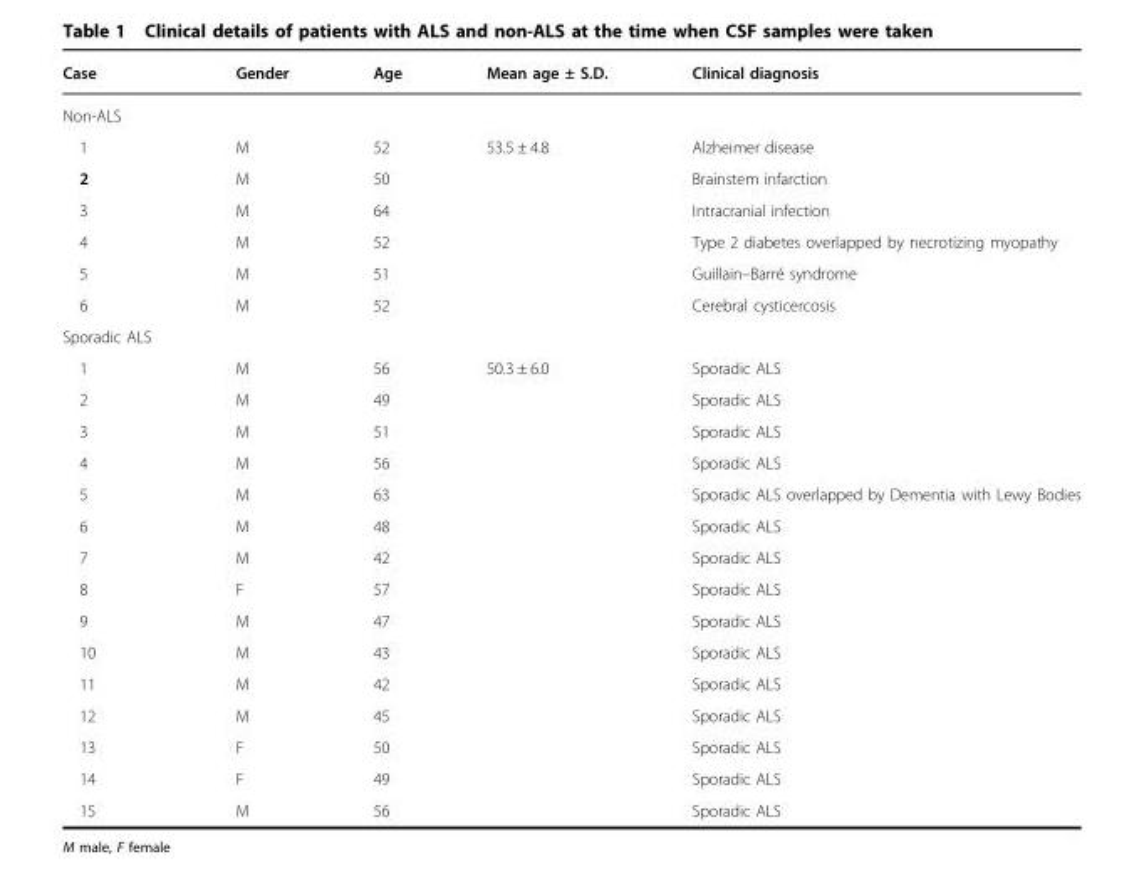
<table><thead><tr><td>Case</td><td>Gender</td><td>Age</td><td>Mean age ± S.D.</td><td>Clinical diagnosis</td></tr></thead><tbody><tr><td colspan="5">Non-ALS</td></tr><tr><td>1</td><td>M</td><td>52</td><td>53.5 ± 4.8</td><td>Alzheimer disease</td></tr><tr><td>2</td><td>M</td><td>50</td><td></td><td>Brainstem infarction</td></tr><tr><td>3</td><td>M</td><td>64</td><td></td><td>Intracranial infection</td></tr><tr><td>4</td><td>M</td><td>52</td><td></td><td>Type 2 diabetes overlapped by necrotizing myopathy</td></tr><tr><td>5</td><td>M</td><td>51</td><td></td><td>Guillain–Barré syndrome</td></tr><tr><td>6</td><td>M</td><td>52</td><td></td><td>Cerebral cysticercosis</td></tr><tr><td colspan="5">Sporadic ALS</td></tr><tr><td>1</td><td>M</td><td>56</td><td>50.3 ± 6.0</td><td>Sporadic ALS</td></tr><tr><td>2</td><td>M</td><td>49</td><td></td><td>Sporadic ALS</td></tr><tr><td>3</td><td>M</td><td>51</td><td></td><td>Sporadic ALS</td></tr><tr><td>4</td><td>M</td><td>56</td><td></td><td>Sporadic ALS</td></tr><tr><td>5</td><td>M</td><td>63</td><td></td><td>Sporadic ALS overlapped by Dementia with Lewy Bodies</td></tr><tr><td>6</td><td>M</td><td>48</td><td></td><td>Sporadic ALS</td></tr><tr><td>7</td><td>M</td><td>42</td><td></td><td>Sporadic ALS</td></tr><tr><td>8</td><td>F</td><td>57</td><td></td><td>Sporadic ALS</td></tr><tr><td>9</td><td>M</td><td>47</td><td></td><td>Sporadic ALS</td></tr><tr><td>10</td><td>M</td><td>43</td><td></td><td>Sporadic ALS</td></tr><tr><td>11</td><td>M</td><td>42</td><td></td><td>Sporadic ALS</td></tr><tr><td>12</td><td>M</td><td>45</td><td></td><td>Sporadic ALS</td></tr><tr><td>13</td><td>F</td><td>50</td><td></td><td>Sporadic ALS</td></tr><tr><td>14</td><td>F</td><td>49</td><td></td><td>Sporadic ALS</td></tr><tr><td>15</td><td>M</td><td>56</td><td></td><td>Sporadic ALS</td></tr></tbody></table>